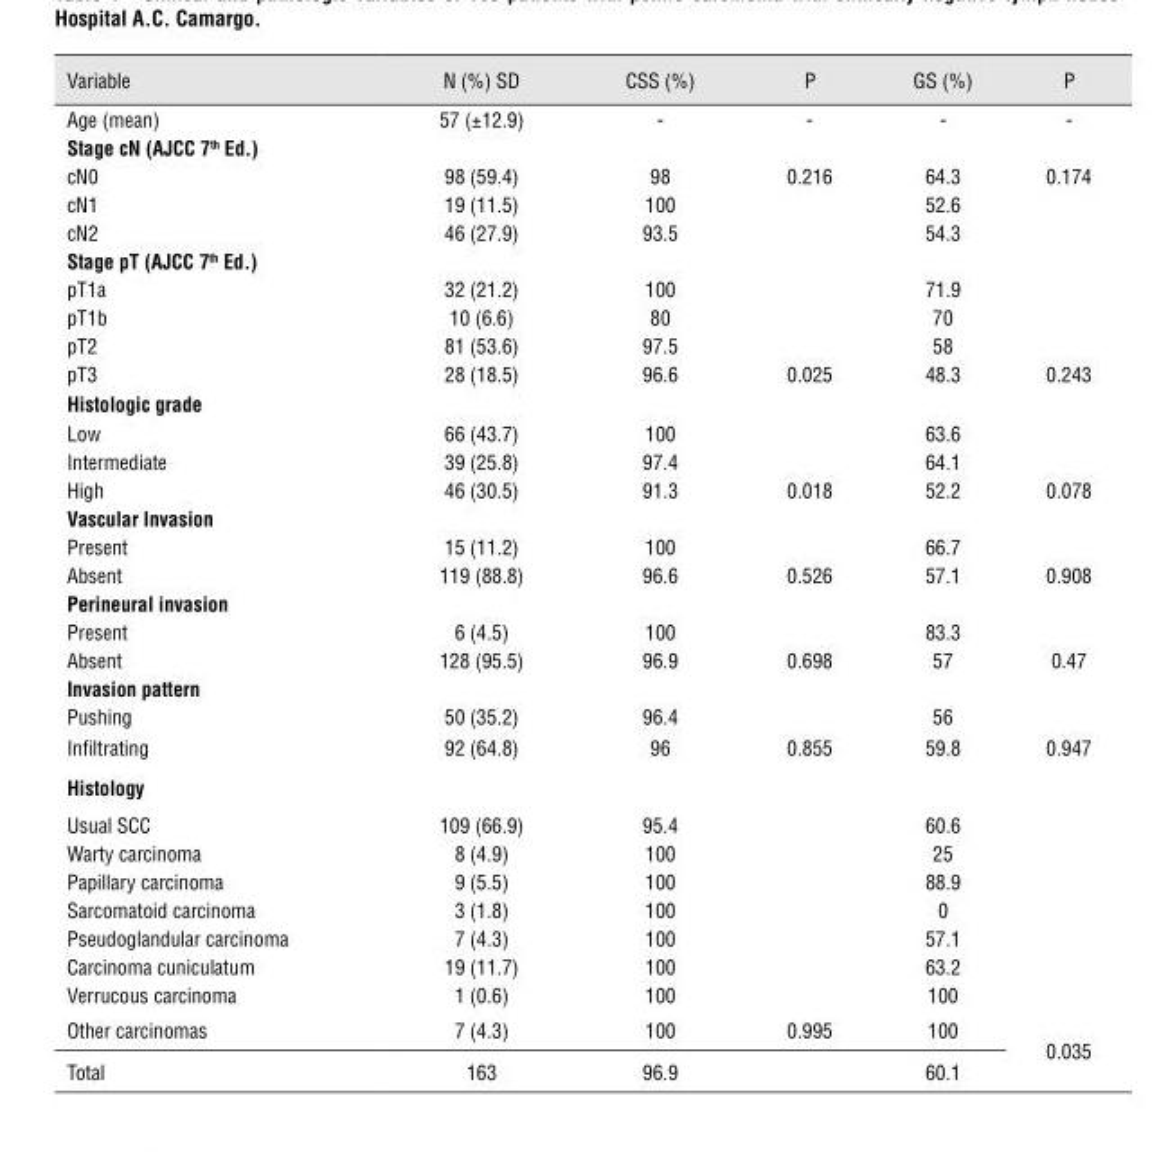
<table><thead><tr><td>Variable</td><td>N (%) SD</td><td>CSS (%)</td><td>P</td><td>GS (%)</td><td>P</td></tr></thead><tbody><tr><td>Age (mean)</td><td>57 (±12.9)</td><td>-</td><td>-</td><td>-</td><td>-</td></tr><tr><td colspan="6">stage cn (AJcc 7<sup>th</sup> Ed.)</td></tr><tr><td>cN0</td><td>98 (59.4)</td><td>98</td><td>0.216</td><td>64.3</td><td>0.174</td></tr><tr><td>cN1</td><td>19 (11.5)</td><td>100</td><td></td><td>52.6</td><td></td></tr><tr><td>cN2</td><td>46 (27.9)</td><td>93.5</td><td></td><td>54.3</td><td></td></tr><tr><td colspan="6">stage pT (AJcc 7<sup>th</sup> Ed.)</td></tr><tr><td>pT1a</td><td>32 (21.2)</td><td>100</td><td></td><td>71.9</td><td></td></tr><tr><td>pT1b</td><td>10 (6.6)</td><td>80</td><td></td><td>70</td><td></td></tr><tr><td>pT2</td><td>81 (53.6)</td><td>97.5</td><td></td><td>58</td><td></td></tr><tr><td>pT3</td><td>28 (18.5)</td><td>96.6</td><td>0.025</td><td>48.3</td><td>0.243</td></tr><tr><td colspan="6">histologic grade</td></tr><tr><td>Low</td><td>66 (43.7)</td><td>100</td><td></td><td>63.6</td><td></td></tr><tr><td>Intermediate</td><td>39 (25.8)</td><td>97.4</td><td></td><td>64.1</td><td></td></tr><tr><td>High</td><td>46 (30.5)</td><td>91.3</td><td>0.018</td><td>52.2</td><td>0.078</td></tr><tr><td colspan="6">vascular Invasion</td></tr><tr><td>Present</td><td>15 (11.2)</td><td>100</td><td></td><td>66.7</td><td></td></tr><tr><td>Absent</td><td>119 (88.8)</td><td>96.6</td><td>0.526</td><td>57.1</td><td>0.908</td></tr><tr><td colspan="6">perineural invasion</td></tr><tr><td>Present</td><td>6 (4.5)</td><td>100</td><td></td><td>83.3</td><td></td></tr><tr><td>Absent</td><td>128 (95.5)</td><td>96.9</td><td>0.698</td><td>57</td><td>0.47</td></tr><tr><td colspan="6">Invasion pattern</td></tr><tr><td>Pushing</td><td>50 (35.2)</td><td>96.4</td><td></td><td>56</td><td></td></tr><tr><td>Infiltrating</td><td>92 (64.8)</td><td>96</td><td>0.855</td><td>59.8</td><td>0.947</td></tr><tr><td colspan="6">histology</td></tr><tr><td>Usual SCC</td><td>109 (66.9)</td><td>95.4</td><td></td><td>60.6</td><td></td></tr><tr><td>Warty carcinoma</td><td>8 (4.9)</td><td>100</td><td></td><td>25</td><td></td></tr><tr><td>Papillary carcinoma</td><td>9 (5.5)</td><td>100</td><td></td><td>88.9</td><td></td></tr><tr><td>Sarcomatoid carcinoma</td><td>3 (1.8)</td><td>100</td><td></td><td>0</td><td></td></tr><tr><td>Pseudoglandular carcinoma</td><td>7 (4.3)</td><td>100</td><td></td><td>57.1</td><td></td></tr><tr><td>Carcinoma cuniculatum</td><td>19 (11.7)</td><td>100</td><td></td><td>63.2</td><td></td></tr><tr><td>Verrucous carcinoma</td><td>1 (0.6)</td><td>100</td><td></td><td>100</td><td></td></tr><tr><td>Other carcinomas</td><td>7 (4.3)</td><td>100</td><td>0.995</td><td>100</td><td rowspan="2">0.035</td></tr><tr><td>Total</td><td>163</td><td>96.9</td><td></td><td>60.1</td></tr></tbody></table>